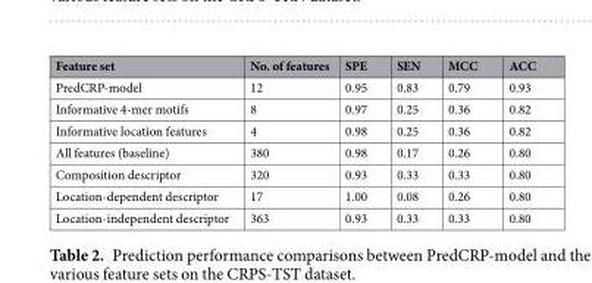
<table><thead><tr><td>Feature set</td><td>No. of features</td><td>SPE</td><td>SEN</td><td>MCC</td><td>ACC</td></tr></thead><tbody><tr><td>PredCRP-model</td><td>12</td><td>0.95</td><td>0.83</td><td>0.79</td><td>0.93</td></tr><tr><td>Informative 4-mer motifs</td><td>8</td><td>0.97</td><td>0.25</td><td>0.36</td><td>0.82</td></tr><tr><td>Informative location features</td><td>4</td><td>0.98</td><td>0.25</td><td>0.36</td><td>0.82</td></tr><tr><td>All features (baseline)</td><td>380</td><td>0.98</td><td>0.17</td><td>0.26</td><td>0.80</td></tr><tr><td>Composition descriptor</td><td>320</td><td>0.93</td><td>0.33</td><td>0.33</td><td>0.80</td></tr><tr><td>Location-dependent descriptor</td><td>17</td><td>1.00</td><td>0.08</td><td>0.26</td><td>0.80</td></tr><tr><td>Location-independent descriptor</td><td>363</td><td>0.93</td><td>0.33</td><td>0.33</td><td>0.80</td></tr></tbody></table>